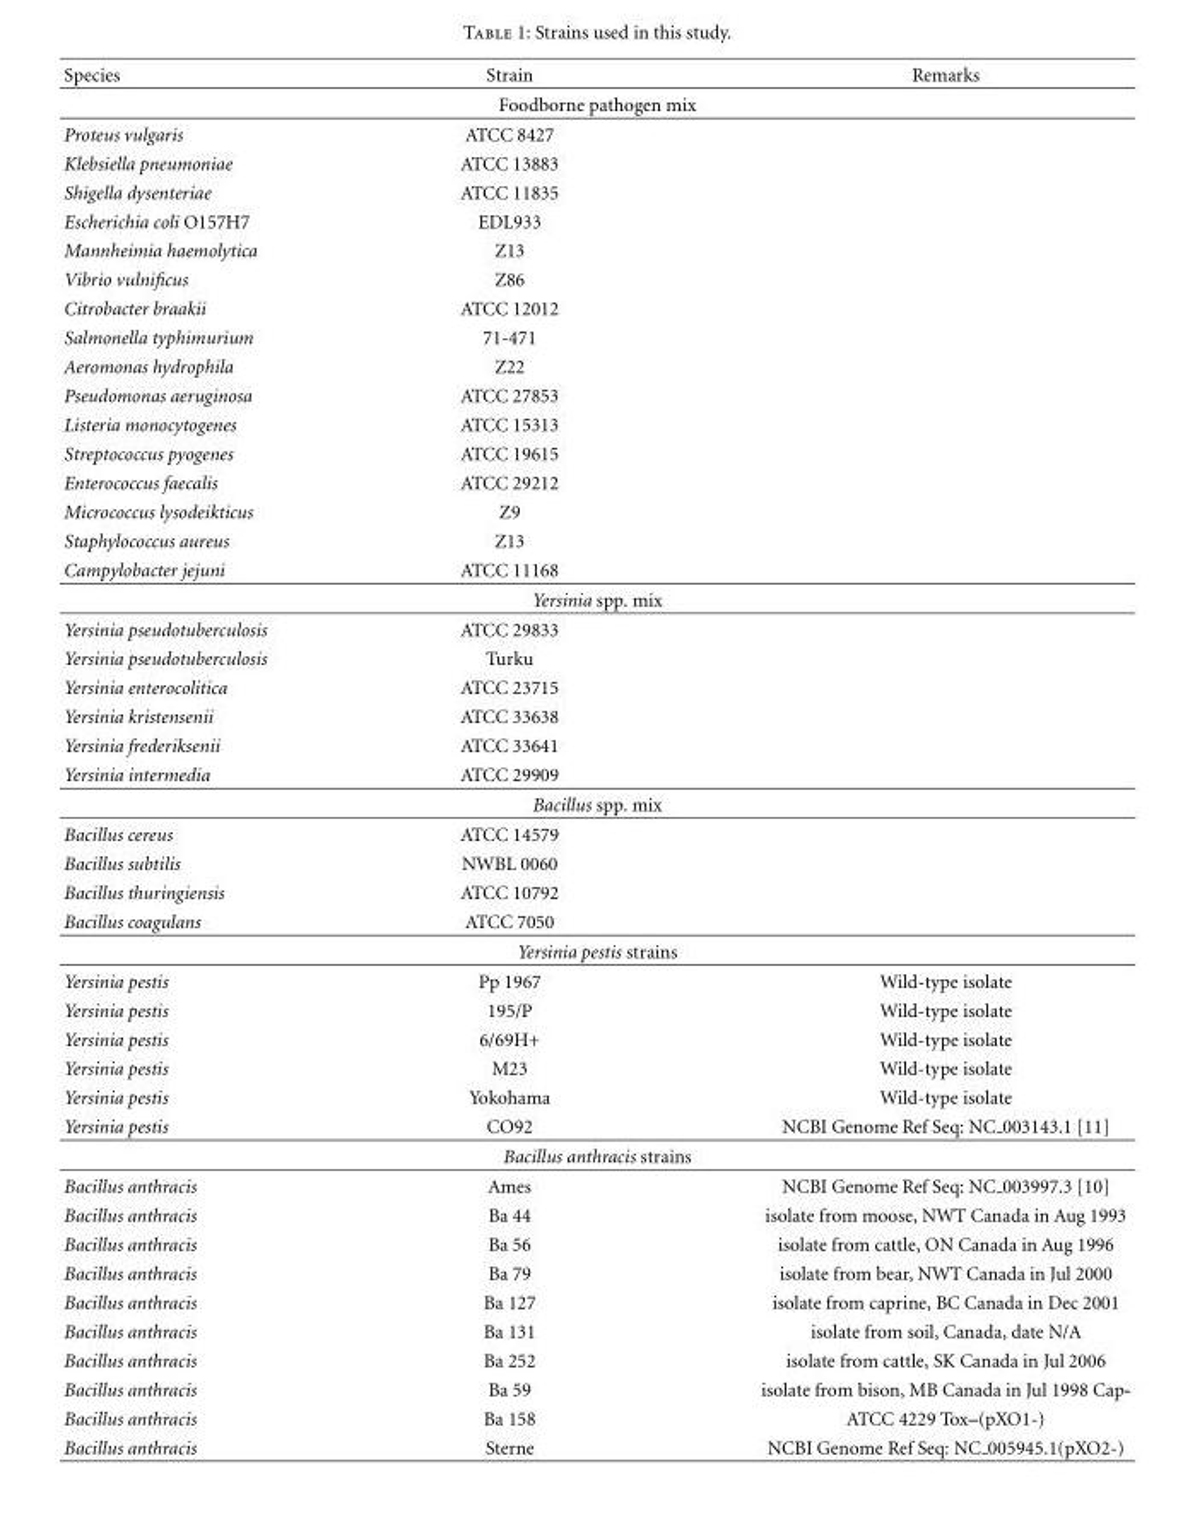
<table><thead><tr><td>Species</td><td>Strain</td><td>Remarks</td></tr></thead><tbody><tr><td colspan="3">Foodborne pathogen mix</td></tr><tr><td>Proteus vulgaris</td><td>ATCC 8427</td><td></td></tr><tr><td>Klebsiella pneumoniae</td><td>ATCC 13883</td><td></td></tr><tr><td>Shigella dysenteriae</td><td>ATCC 11835</td><td></td></tr><tr><td>Escherichia coli O157H7</td><td>EDL933</td><td></td></tr><tr><td>Mannheimia haemolytica</td><td>Z13</td><td></td></tr><tr><td>Vibrio vulnificus</td><td>Z86</td><td></td></tr><tr><td>Citrobacter braakii</td><td>ATCC 12012</td><td></td></tr><tr><td>Salmonella typhimurium</td><td>71-471</td><td></td></tr><tr><td>Aeromonas hydrophila</td><td>Z22</td><td></td></tr><tr><td>Pseudomonas aeruginosa</td><td>ATCC 27853</td><td></td></tr><tr><td>Listeria monocytogenes</td><td>ATCC 15313</td><td></td></tr><tr><td>Streptococcus pyogenes</td><td>ATCC 19615</td><td></td></tr><tr><td>Enterococcus faecalis</td><td>ATCC 29212</td><td></td></tr><tr><td>Micrococcus lysodeikticus</td><td>Z9</td><td></td></tr><tr><td>Staphylococcus aureus</td><td>Z13</td><td></td></tr><tr><td>Campylobacter jejuni</td><td>ATCC 11168</td><td></td></tr><tr><td colspan="3">Yersinia spp. mix</td></tr><tr><td>Yersinia pseudotuberculosis</td><td>ATCC 29833</td><td></td></tr><tr><td>Yersinia pseudotuberculosis</td><td>Turku</td><td></td></tr><tr><td>Yersinia enterocolitica</td><td>ATCC 23715</td><td></td></tr><tr><td>Yersinia kristensenii</td><td>ATCC 33638</td><td></td></tr><tr><td>Yersinia frederiksenii</td><td>ATCC 33641</td><td></td></tr><tr><td>Yersinia intermedia</td><td>ATCC 29909</td><td></td></tr><tr><td colspan="3">Bacillus spp. mix</td></tr><tr><td>Bacillus cereus</td><td>ATCC 14579</td><td></td></tr><tr><td>Bacillus subtilis</td><td>NWBL 0060</td><td></td></tr><tr><td>Bacillus thuringiensis</td><td>ATCC 10792</td><td></td></tr><tr><td>Bacillus coagulans</td><td>ATCC 7050</td><td></td></tr><tr><td colspan="3">Yersinia pestis strains</td></tr><tr><td>Yersinia pestis</td><td>Pp 1967</td><td>Wild-type isolate</td></tr><tr><td>Yersinia pestis</td><td>195/P</td><td>Wild-type isolate</td></tr><tr><td>Yersinia pestis</td><td>6/69H+</td><td>Wild-type isolate</td></tr><tr><td>Yersinia pestis</td><td>M23</td><td>Wild-type isolate</td></tr><tr><td>Yersinia pestis</td><td>Yokohama</td><td>Wild-type isolate</td></tr><tr><td>Yersinia pestis</td><td>CO92</td><td>NCBI Genome Ref Seq: NC 003143.1 [11]</td></tr><tr><td colspan="3">Bacillus anthracis strains</td></tr><tr><td>Bacillus anthracis</td><td>Ames</td><td>NCBI Genome Ref Seq: NC 003997.3 [10]</td></tr><tr><td>Bacillus anthracis</td><td>Ba 44</td><td>isolate from moose, NWT Canada in Aug 1993</td></tr><tr><td>Bacillus anthracis</td><td>Ba 56</td><td>isolate from cattle, ON Canada in Aug 1996</td></tr><tr><td>Bacillus anthracis</td><td>Ba 79</td><td>isolate from bear, NWT Canada in Jul 2000</td></tr><tr><td>Bacillus anthracis</td><td>Ba 127</td><td>isolate from caprine, BC Canada in Dec 2001</td></tr><tr><td>Bacillus anthracis</td><td>Ba 131</td><td>isolate from soil, Canada, date N/A</td></tr><tr><td>Bacillus anthracis</td><td>Ba 252</td><td>isolate from cattle, SK Canada in Jul 2006</td></tr><tr><td>Bacillus anthracis</td><td>Ba 59</td><td>isolate from bison, MB Canada in Jul 1998 Cap-</td></tr><tr><td>Bacillus anthracis</td><td>Ba 158</td><td>ATCC 4229 Tox–(pXO1-)</td></tr><tr><td>Bacillus anthracis</td><td>Sterne</td><td>NCBI Genome Ref Seq: NC 005945.1(pXO2-)</td></tr></tbody></table>